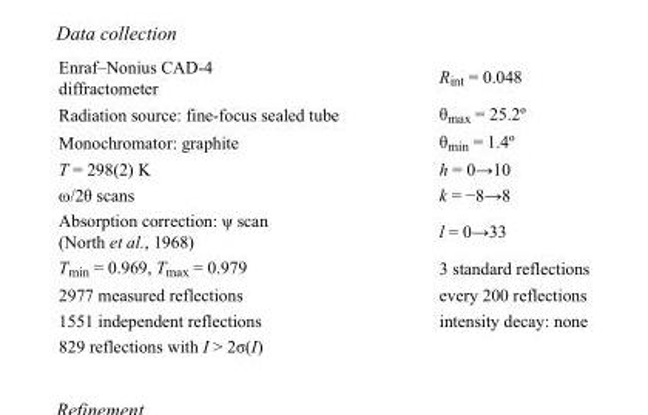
<table><tbody><tr><td>Enraf–Nonius CAD-4 diffractometer</td><td>R<sub>int</sub> = 0.048</td></tr><tr><td>Radiation source: fine-focus sealed tube</td><td>θ<sub>max</sub> = 25.2º</td></tr><tr><td>Monochromator: graphite</td><td>θ<sub>min</sub> = 1.4º</td></tr><tr><td>T = 298(2) K</td><td>h = 0→10</td></tr><tr><td>ω/2θ scans</td><td>k = −8→8</td></tr><tr><td>Absorption correction: ψ scan (North et al., 1968)</td><td>l = 0→33</td></tr><tr><td>T<sub>min</sub> = 0.969, T<sub>max</sub> = 0.979</td><td>3 standard reflections</td></tr><tr><td>2977 measured reflections</td><td>every 200 reflections</td></tr><tr><td>1551 independent reflections</td><td>intensity decay: none</td></tr><tr><td>829 reflections with I &gt; 2σ(I)</td><td></td></tr></tbody></table>